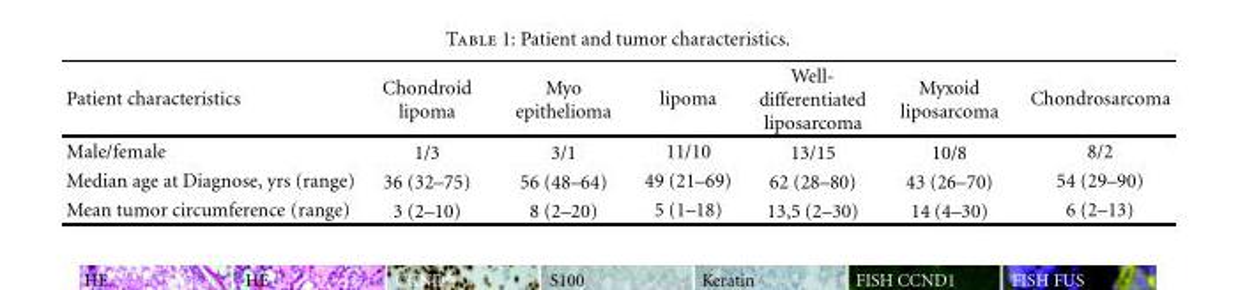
<table><thead><tr><td>Patient characteristics</td><td>Chondroid lipoma</td><td>Myo epithelioma</td><td>lipoma</td><td>Well- differentiated liposarcoma</td><td>Myxoid liposarcoma</td><td>Chondrosarcoma</td></tr></thead><tbody><tr><td>Male/female</td><td>1/3</td><td>3/1</td><td>11/10</td><td>13/15</td><td>10/8</td><td>8/2</td></tr><tr><td>Median age at Diagnose, yrs (range)</td><td>36 (32–75)</td><td>56 (48–64)</td><td>49 (21–69)</td><td>62 (28–80)</td><td>43 (26–70)</td><td>54 (29–90)</td></tr><tr><td>Mean tumor circumference (range)</td><td>3 (2–10)</td><td>8 (2–20)</td><td>5 (1–18)</td><td>13,5 (2–30)</td><td>14 (4–30)</td><td>6 (2–13)</td></tr></tbody></table>